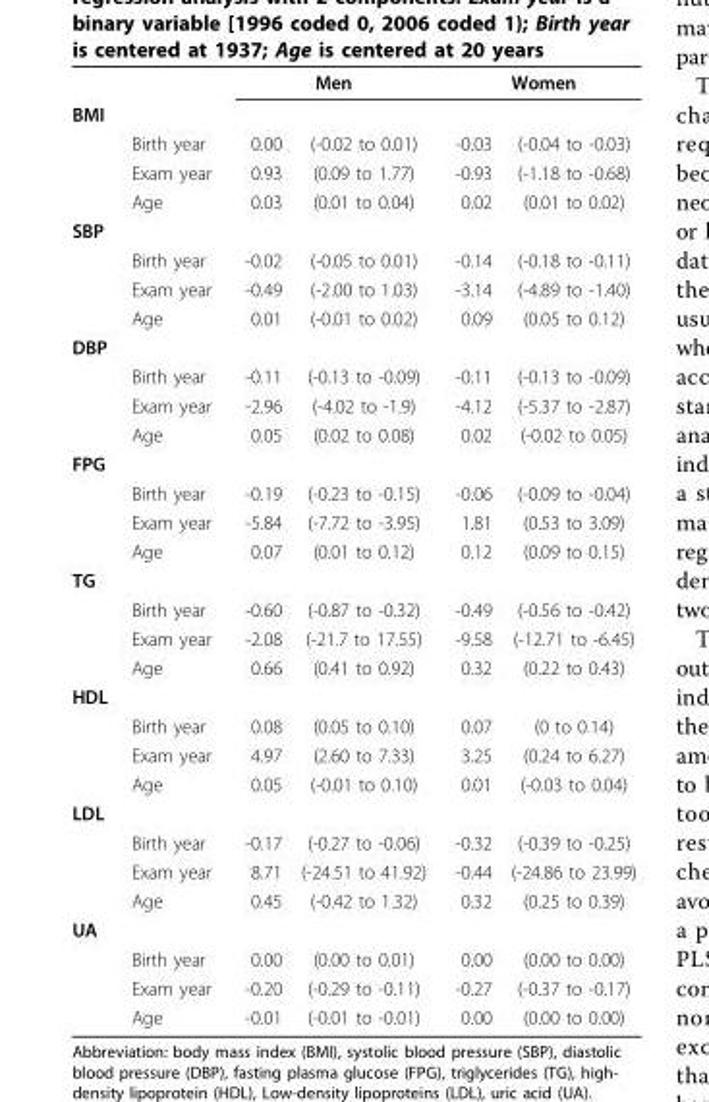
<table><thead><tr><td rowspan="2">BMI</td><td rowspan="2"></td><td colspan="2">Men</td><td colspan="2">Women</td></tr><tr><td></td><td></td><td></td><td></td></tr></thead><tbody><tr><td></td><td>Birth year</td><td>0.00</td><td>(-0.02 to 0.01)</td><td>-0.03</td><td>(-0.04 to -0.03)</td></tr><tr><td></td><td>Exam year</td><td>0.93</td><td>(0.09 to 1.77)</td><td>-0.93</td><td>(-1.18 to -0.68)</td></tr><tr><td></td><td>Age</td><td>0.03</td><td>(0.01 to 0.04)</td><td>0.02</td><td>(0.01 to 0.02)</td></tr><tr><td colspan="6">SBP</td></tr><tr><td></td><td>Birth year</td><td>-0.02</td><td>(-0.05 to 0.01)</td><td>-0.14</td><td>(-0.18 to -0.11)</td></tr><tr><td></td><td>Exam year</td><td>-0.49</td><td>(-2.00 to 1.03)</td><td>-3.14</td><td>(-4.89 to -1.40)</td></tr><tr><td></td><td>Age</td><td>0.01</td><td>(-0.01 to 0.02)</td><td>0.09</td><td>(0.05 to 0.12)</td></tr><tr><td colspan="6">DBP</td></tr><tr><td></td><td>Birth year</td><td>-0.11</td><td>(-0.13 to -0.09)</td><td>-0.11</td><td>(-0.13 to -0.09)</td></tr><tr><td></td><td>Exam year</td><td>-2.96</td><td>(-4.02 to -1.9)</td><td>-4.12</td><td>(-5.37 to -2.87)</td></tr><tr><td></td><td>Age</td><td>0.05</td><td>(0.02 to 0.08)</td><td>0.02</td><td>(-0.02 to 0.05)</td></tr><tr><td colspan="6">FPG</td></tr><tr><td></td><td>Birth year</td><td>-0.19</td><td>(-0.23 to -0.15)</td><td>-0.06</td><td>(-0.09 to -0.04)</td></tr><tr><td></td><td>Exam year</td><td>-5.84</td><td>(-7.72 to -3.95)</td><td>1.81</td><td>(0.53 to 3.09)</td></tr><tr><td></td><td>Age</td><td>0.07</td><td>(0.01 to 0.12)</td><td>0.12</td><td>(0.09 to 0.15)</td></tr><tr><td colspan="6">TG</td></tr><tr><td></td><td>Birth year</td><td>-0.60</td><td>(-0.87 to -0.32)</td><td>-0.49</td><td>(-0.56 to -0.42)</td></tr><tr><td></td><td>Exam year</td><td>-2.08</td><td>(-21.7 to 17.55)</td><td>-9.58</td><td>(-12.71 to -6.45)</td></tr><tr><td></td><td>Age</td><td>0.66</td><td>(0.41 to 0.92)</td><td>0.32</td><td>(0.22 to 0.43)</td></tr><tr><td colspan="6">HDL</td></tr><tr><td></td><td>Birth year</td><td>0.08</td><td>(0.05 to 0.10)</td><td>0.07</td><td>(0 to 0.14)</td></tr><tr><td></td><td>Exam year</td><td>4.97</td><td>(2.60 to 7.33)</td><td>3.25</td><td>(0.24 to 6.27)</td></tr><tr><td></td><td>Age</td><td>0.05</td><td>(-0.01 to 0.10)</td><td>0.01</td><td>(-0.03 to 0.04)</td></tr><tr><td colspan="6">LDL</td></tr><tr><td></td><td>Birth year</td><td>-0.17</td><td>(-0.27 to -0.06)</td><td>-0.32</td><td>(-0.39 to -0.25)</td></tr><tr><td></td><td>Exam year</td><td>8.71</td><td>(-24.51 to 41.92)</td><td>-0.44</td><td>(-24.86 to 23.99)</td></tr><tr><td></td><td>Age</td><td>0.45</td><td>(-0.42 to 1.32)</td><td>0.32</td><td>(0.25 to 0.39)</td></tr><tr><td colspan="6">UA</td></tr><tr><td></td><td>Birth year</td><td>0.00</td><td>(0.00 to 0.01)</td><td>0.00</td><td>(0.00 to 0.00)</td></tr><tr><td></td><td>Exam year</td><td>-0.20</td><td>(-0.29 to -0.11)</td><td>-0.27</td><td>(-0.37 to -0.17)</td></tr><tr><td></td><td>Age</td><td>-0.01</td><td>(-0.01 to -0.01)</td><td>0.00</td><td>(0.00 to 0.00)</td></tr></tbody></table>